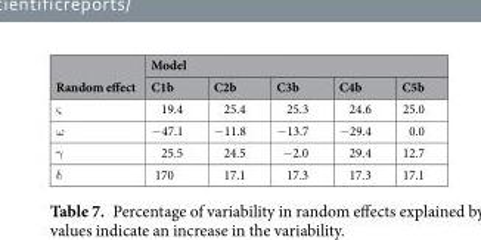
<table><thead><tr><td rowspan="2">Random effect</td><td colspan="5">Model</td></tr><tr><td>C1b</td><td>C2b</td><td>C3b</td><td>C4b</td><td>C5b</td></tr></thead><tbody><tr><td>ς</td><td>19.4</td><td>25.4</td><td>25.3</td><td>24.6</td><td>25.0</td></tr><tr><td>ω</td><td>−47.1</td><td>−11.8</td><td>−13.7</td><td>−29.4</td><td>0.0</td></tr><tr><td>γ</td><td>25.5</td><td>24.5</td><td>−2.0</td><td>29.4</td><td>12.7</td></tr><tr><td>δ</td><td>170</td><td>17.1</td><td>17.3</td><td>17.3</td><td>17.1</td></tr></tbody></table>